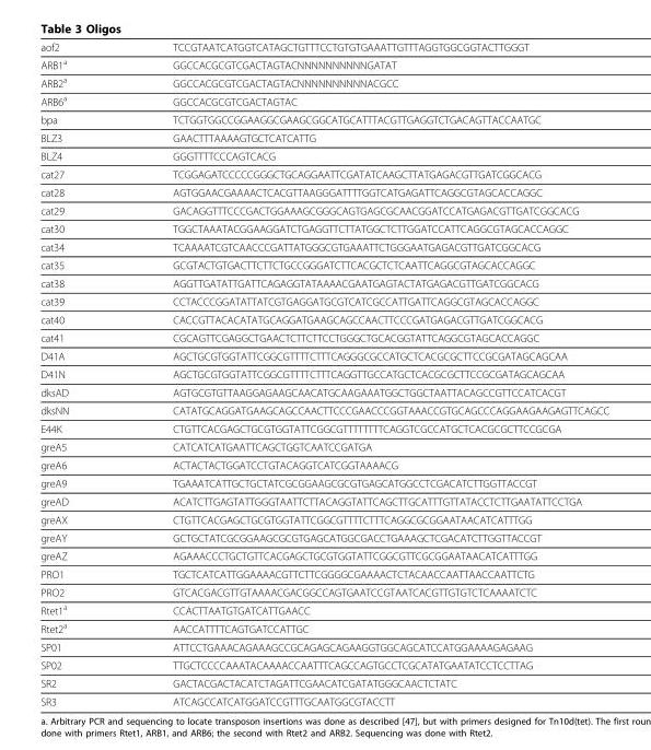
<table><thead><tr><td>aof2</td><td>TCCGTAATCATGGTCATAGCTGTTTCCTGTGTGAAATTGTTTAGGTGGCGGTACTTGGGT</td></tr></thead><tbody><tr><td>ARB1<sup>a</sup></td><td>GGCCACGCGTCGACTAGTACNNNNNNNNNNGATAT</td></tr><tr><td>ARB2<sup>a</sup></td><td>GGCCACGCGTCGACTAGTACNNNNNNNNNNACGCC</td></tr><tr><td>ARB6<sup>a</sup></td><td>GGCCACGCGTCGACTAGTAC</td></tr><tr><td>bpa</td><td>TCTGGTGGCCGGAAGGCGAAGCGGCATGCATTTACGTTGAGGTCTGACAGTTACCAATGC</td></tr><tr><td>BLZ3</td><td>GAACTTTAAAAGTGCTCATCATTG</td></tr><tr><td>BLZ4</td><td>GGGTTTTCCCAGTCACG</td></tr><tr><td>cat27</td><td>TCGGAGATCCCCCGGGCTGCAGGAATTCGATATCAAGCTTATGAGACGTTGATCGGCACG</td></tr><tr><td>cat28</td><td>AGTGGAACGAAAACTCACGTTAAGGGATTTTGGTCATGAGATTCAGGCGTAGCACCAGGC</td></tr><tr><td>cat29</td><td>GACAGGTTTCCCGACTGGAAAGCGGGCAGTGAGCGCAACGGATCCATGAGACGTTGATCGGCACG</td></tr><tr><td>cat30</td><td>TGGCTAAATACGGAAGGATCTGAGGTTCTTATGGCTCTTGGATCCATTCAGGCGTAGCACCAGGC</td></tr><tr><td>cat34</td><td>TCAAAATCGTCAACCCGATTATGGGCGTGAAATTCTGGGAATGAGACGTTGATCGGCACG</td></tr><tr><td>cat35</td><td>GCGTACTGTGACTTCTTCTGCCGGGATCTTCACGCTCTCAATTCAGGCGTAGCACCAGGC</td></tr><tr><td>cat38</td><td>AGGTTGATATTGATTCAGAGGTATAAAACGAATGAGTACTATGAGACGTTGATCGGCACG</td></tr><tr><td>cat39</td><td>CCTACCCGGATATTATCGTGAGGATGCGTCATCGCCATTGATTCAGGCGTAGCACCAGGC</td></tr><tr><td>cat40</td><td>CACCGTTACACATATGCAGGATGAAGCAGCCAACTTCCCGATGAGACGTTGATCGGCACG</td></tr><tr><td>cat41</td><td>CGCAGTTCGAGGCTGAACTCTTCTTCCTGGGCTGCACGGTATTCAGGCGTAGCACCAGGC</td></tr><tr><td>D41A</td><td>AGCTGCGTGGTATTCGGCGTTTTCTTTCAGGGCGCCATGCTCACGCGCTTCCGCGATAGCAGCAA</td></tr><tr><td>D41N</td><td>AGCTGCGTGGTATTCGGCGTTTTCTTTCAGGTTGCCATGCTCACGCGCTTCCGCGATAGCAGCAA</td></tr><tr><td>dksAD</td><td>AGTGCGTGTTAAGGAGAAGCAACATGCAAGAAATGGCTGGCTAATTACAGCCGTTCCATCACGT</td></tr><tr><td>dksNN</td><td>CATATGCAGGATGAAGCAGCCAACTTCCCGAACCCGGTAAACCGTGCAGCCCAGGAAGAAGAGTTCAGCC</td></tr><tr><td>E44K</td><td>CTGTTCACGAGCTGCGTGGTATTCGGCGTTTTTTTTCAGGTCGCCATGCTCACGCGCTTCCGCGA</td></tr><tr><td>greA5</td><td>CATCATCATGAATTCAGCTGGTCAATCCGATGA</td></tr><tr><td>greA6</td><td>ACTACTACTGGATCCTGTACAGGTCATCGGTAAAACG</td></tr><tr><td>greA9</td><td>TGAAATCATTGCTGCTATCGCGGAAGCGCGTGAGCATGGCCTCGACATCTTGGTTACCGT</td></tr><tr><td>greAD</td><td>ACATCTTGAGTATTGGGTAATTCTTACAGGTATTCAGCTTGCATTTGTTATACCTCTTGAATATTCCTGA</td></tr><tr><td>greAX</td><td>CTGTTCACGAGCTGCGTGGTATTCGGCGTTTTCTTTCAGGCGCGGAATAACATCATTTGG</td></tr><tr><td>greAY</td><td>GCTGCTATCGCGGAAGCGCGTGAGCATGGCGACCTGAAAGCTCGACATCTTGGTTACCGT</td></tr><tr><td>greAZ</td><td>AGAAACCCTGCTGTTCACGAGCTGCGTGGTATTCGGCGTTCGCGGAATAACATCATTTGG</td></tr><tr><td>PRO1</td><td>TGCTCATCATTGGAAAACGTTCTTCGGGGCGAAAACTCTACAACCAATTAACCAATTCTG</td></tr><tr><td>PRO2</td><td>GTCACGACGTTGTAAAACGACGGCCAGTGAATCCGTAATCACGTTGTGTCTCAAAATCTC</td></tr><tr><td>Rtet1<sup>a</sup></td><td>CCACTTAATGTGATCATTGAACC</td></tr><tr><td>Rtet2<sup>a</sup></td><td>AACCATTTTCAGTGATCCATTGC</td></tr><tr><td>SP01</td><td>ATTCCTGAAACAGAAAGCCGCAGAGCAGAAGGTGGCAGCATCCATGGAAAAGAGAAG</td></tr><tr><td>SP02</td><td>TTGCTCCCCAAATACAAAACCAATTTCAGCCAGTGCCTCGCATATGAATATCCTCCTTAG</td></tr><tr><td>SR2</td><td>GACTACGACTACATCTAGATTCGAACATCGATATGGGCAACTCTATC</td></tr><tr><td>SR3</td><td>ATCAGCCATCATGGATCCGTTTGCAATGGCGTACCTT</td></tr></tbody></table>